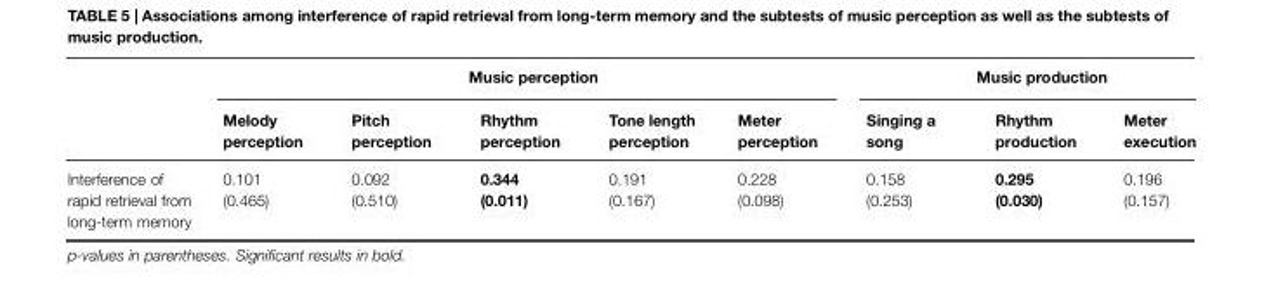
<table><thead><tr><td rowspan="2"></td><td colspan="5">Music perception</td><td colspan="3">Music production</td></tr><tr><td>Melody perception</td><td>Pitch perception</td><td>Rhythm perception</td><td>Tone length perception</td><td>Meter perception</td><td>Singing a song</td><td>Rhythm production</td><td>Meter execution</td></tr></thead><tbody><tr><td>Interference of rapid retrieval from long-term memory</td><td>0.101 (0.465)</td><td>0.092 (0.510)</td><td>0.344 (0.011)</td><td>0.191 (0.167)</td><td>0.228 (0.098)</td><td>0.158 (0.253)</td><td>0.295 (0.030)</td><td>0.196 (0.157)</td></tr></tbody></table>